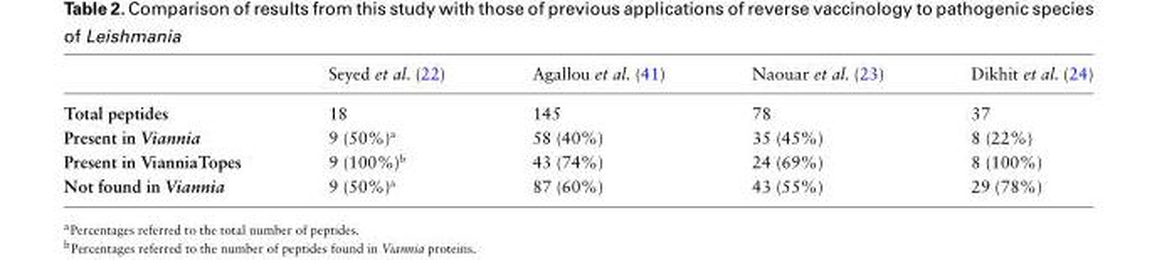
<table><thead><tr><td></td><td>Seyed et al. (22)</td><td>Agallou et al. (41)</td><td>Naouar et al. (23)</td><td>Dikhit et al. (24)</td></tr></thead><tbody><tr><td>Total peptides</td><td>18</td><td>145</td><td>78</td><td>37</td></tr><tr><td>Present in Viannia</td><td>9 (50%)<sup>a</sup></td><td>58 (40%)</td><td>35 (45%)</td><td>8 (22%)</td></tr><tr><td>Present in VianniaTopes</td><td>9 (100%)<sup>b</sup></td><td>43 (74%)</td><td>24 (69%)</td><td>8 (100%)</td></tr><tr><td>Not found in Viannia</td><td>9 (50%)<sup>a</sup></td><td>87 (60%)</td><td>43 (55%)</td><td>29 (78%)</td></tr></tbody></table>